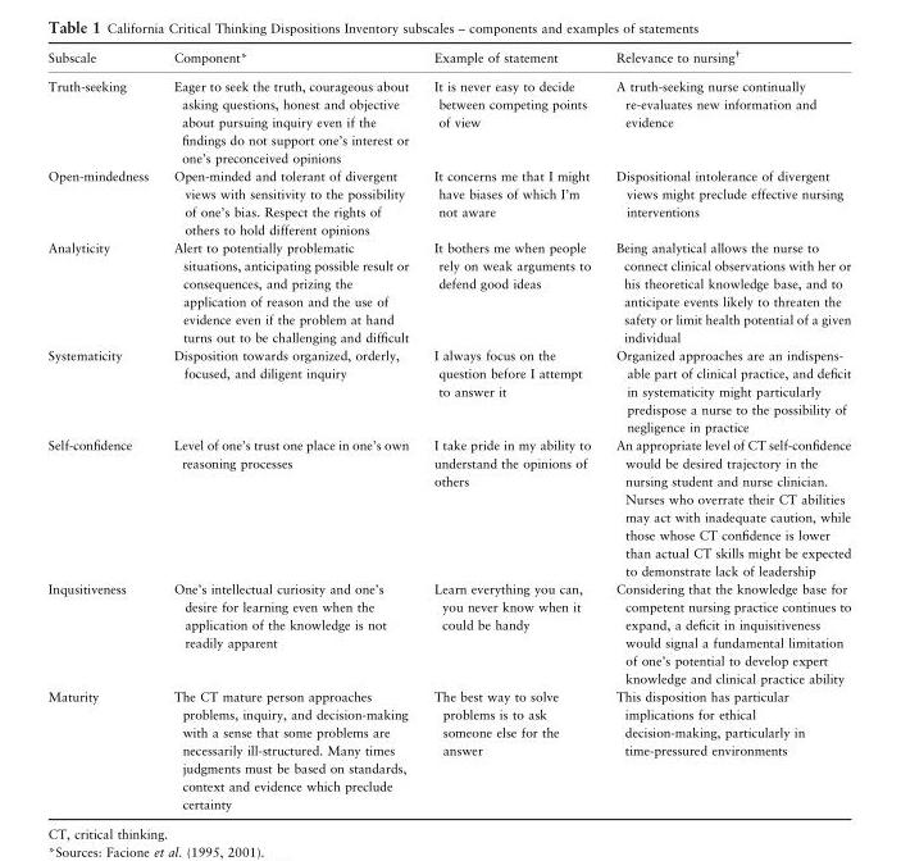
<table><thead><tr><td>Subscale</td><td>Component*</td><td>Example of statement</td><td>Relevance to nursing†</td></tr></thead><tbody><tr><td>Truth-seeking</td><td>Eager to seek the truth, courageous about asking questions, honest and objective about pursuing inquiry even if the findings do not support one’s interest or one’s preconceived opinions</td><td>It is never easy to decide between competing points of view</td><td>A truth-seeking nurse continually re-evaluates new information and evidence</td></tr><tr><td>Open-mindedness</td><td>Open-minded and tolerant of divergent views with sensitivity to the possibility of one’s bias. Respect the rights of others to hold different opinions</td><td>It concerns me that I might have biases of which I’m not aware</td><td>Dispositional intolerance of divergent views might preclude effective nursing interventions</td></tr><tr><td>Analyticity</td><td>Alert to potentially problematic situations, anticipating possible result or consequences, and prizing the application of reason and the use of evidence even if the problem at hand turns out to be challenging and difficult</td><td>It bothers me when people rely on weak arguments to defend good ideas</td><td>Being analytical allows the nurse to connect clinical observations with her or his theoretical knowledge base, and to anticipate events likely to threaten the safety or limit health potential of a given individual</td></tr><tr><td>Systematicity</td><td>Disposition towards organized, orderly, focused, and diligent inquiry</td><td>I always focus on the question before I attempt to answer it</td><td>Organized approaches are an indispens- able part of clinical practice, and deficit in systematicity might particularly predispose a nurse to the possibility of negligence in practice</td></tr><tr><td>Self-confidence</td><td>Level of one’s trust one place in one’s own reasoning processes</td><td>I take pride in my ability to understand the opinions of others</td><td>An appropriate level of CT self-confidence would be desired trajectory in the nursing student and nurse clinician. Nurses who overrate their CT abilities may act with inadequate caution, while those whose CT confidence is lower than actual CT skills might be expected to demonstrate lack of leadership</td></tr><tr><td>Inqusitiveness</td><td>One’s intellectual curiosity and one’s desire for learning even when the application of the knowledge is not readily apparent</td><td>Learn everything you can, you never know when it could be handy</td><td>Considering that the knowledge base for competent nursing practice continues to expand, a deficit in inquisitiveness would signal a fundamental limitation of one’s potential to develop expert knowledge and clinical practice ability</td></tr><tr><td>Maturity</td><td>The CT mature person approaches problems, inquiry, and decision-making with a sense that some problems are necessarily ill-structured. Many times judgments must be based on standards, context and evidence which preclude certainty</td><td>The best way to solve problems is to ask someone else for the answer</td><td>This disposition has particular implications for ethical decision-making, particularly in time-pressured environments</td></tr></tbody></table>